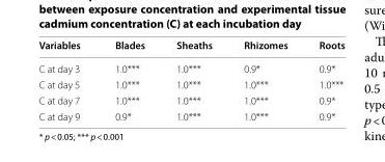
<table><thead><tr><td>Variables</td><td>Blades</td><td>Sheaths</td><td>Rhizomes</td><td>Roots</td></tr></thead><tbody><tr><td>C at day 3</td><td>1.0***</td><td>1.0***</td><td>0.9*</td><td>0.9*</td></tr><tr><td>C at day 5</td><td>1.0***</td><td>1.0***</td><td>1.0***</td><td>1.0***</td></tr><tr><td>C at day 7</td><td>1.0***</td><td>1.0***</td><td>1.0***</td><td>0.9*</td></tr><tr><td>C at day 9</td><td>0.9*</td><td>1.0***</td><td>1.0***</td><td>0.9*</td></tr></tbody></table>